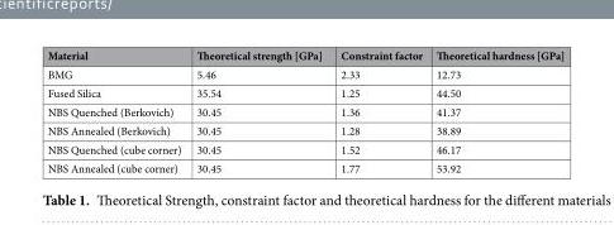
<table><thead><tr><td>Material</td><td>Theoretical strength [GPa]</td><td>Constraint factor</td><td>Theoretical hardness [GPa]</td></tr></thead><tbody><tr><td>BMG</td><td>5.46</td><td>2.33</td><td>12.73</td></tr><tr><td>Fused Silica</td><td>35.54</td><td>1.25</td><td>44.50</td></tr><tr><td>NBS Quenched (Berkovich)</td><td>30.45</td><td>1.36</td><td>41.37</td></tr><tr><td>NBS Annealed (Berkovich)</td><td>30.45</td><td>1.28</td><td>38.89</td></tr><tr><td>NBS Quenched (cube corner)</td><td>30.45</td><td>1.52</td><td>46.17</td></tr><tr><td>NBS Annealed (cube corner)</td><td>30.45</td><td>1.77</td><td>53.92</td></tr></tbody></table>